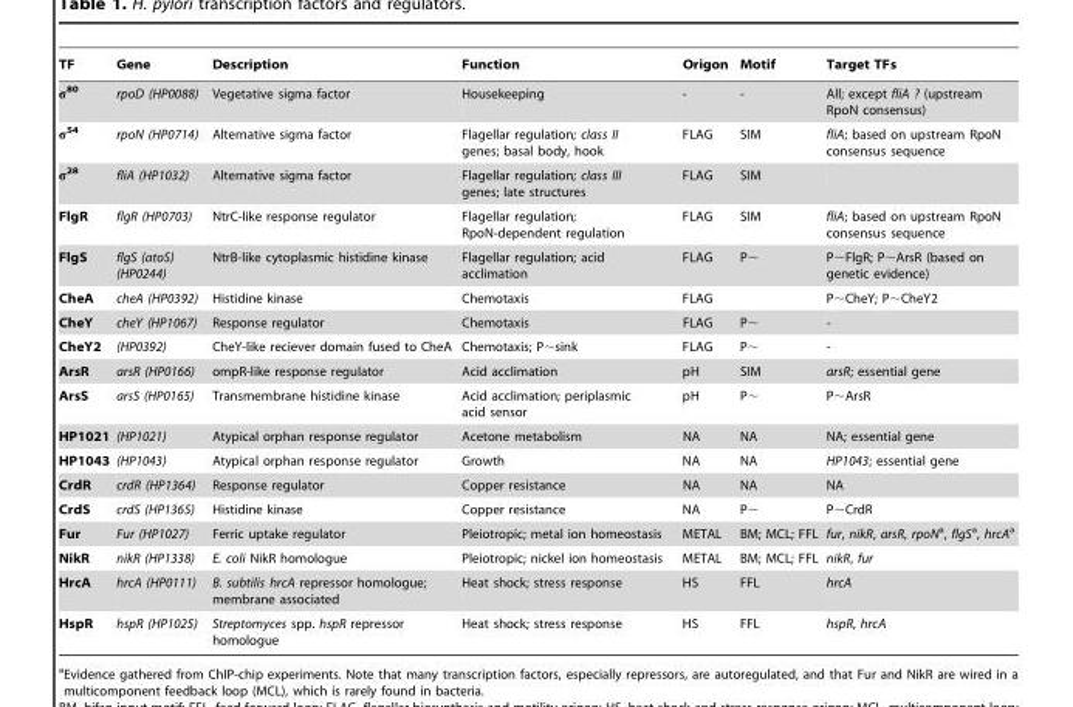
<table><thead><tr><td>TF</td><td>Gene</td><td>Description</td><td>Function</td><td>Origon</td><td>Motif</td><td>Target TFs</td></tr></thead><tbody><tr><td>σ<sup>80</sup></td><td>rpoD (HP0088)</td><td>Vegetative sigma factor</td><td>Housekeeping</td><td>-</td><td>-</td><td>All; except fliA ? (upstream RpoN consensus)</td></tr><tr><td>σ<sup>54</sup></td><td>rpoN (HP0714)</td><td>Alternative sigma factor</td><td>Flagellar regulation; class II genes; basal body, hook</td><td>FLAG</td><td>SIM</td><td>fliA; based on upstream RpoN consensus sequence</td></tr><tr><td>σ<sup>28</sup></td><td>fliA (HP1032)</td><td>Alternative sigma factor</td><td>Flagellar regulation; class III genes; late structures</td><td>FLAG</td><td>SIM</td><td></td></tr><tr><td>FlgR</td><td>flgR (HP0703)</td><td>NtrC-like response regulator</td><td>Flagellar regulation; RpoN-dependent regulation</td><td>FLAG</td><td>SIM</td><td>fliA; based on upstream RpoN consensus sequence</td></tr><tr><td>FlgS</td><td>flgS (atoS) (HP0244)</td><td>NtrB-like cytoplasmic histidine kinase</td><td>Flagellar regulation; acid acclimation</td><td>FLAG</td><td>P∼</td><td>P∼FlgR; P∼ArsR (based on genetic evidence)</td></tr><tr><td>CheA</td><td>cheA (HP0392)</td><td>Histidine kinase</td><td>Chemotaxis</td><td>FLAG</td><td></td><td>P∼CheY; P∼CheY2</td></tr><tr><td>CheY</td><td>cheY (HP1067)</td><td>Response regulator</td><td>Chemotaxis</td><td>FLAG</td><td>P∼</td><td>-</td></tr><tr><td>CheY2</td><td>(HP0392)</td><td>CheY-like reciever domain fused to CheA</td><td>Chemotaxis; P∼sink</td><td>FLAG</td><td>P∼</td><td>-</td></tr><tr><td>ArsR</td><td>arsR (HP0166)</td><td>ompR-like response regulator</td><td>Acid acclimation</td><td>pH</td><td>SIM</td><td>arsR; essential gene</td></tr><tr><td>ArsS</td><td>arsS (HP0165)</td><td>Transmembrane histidine kinase</td><td>Acid acclimation; periplasmic acid sensor</td><td>pH</td><td>P∼</td><td>P∼ArsR</td></tr><tr><td>HP1021</td><td>(HP1021)</td><td>Atypical orphan response regulator</td><td>Acetone metabolism</td><td>NA</td><td>NA</td><td>NA; essential gene</td></tr><tr><td>HP1043</td><td>(HP1043)</td><td>Atypical orphan response regulator</td><td>Growth</td><td>NA</td><td>NA</td><td>HP1043; essential gene</td></tr><tr><td>CrdR</td><td>crdR (HP1364)</td><td>Response regulator</td><td>Copper resistance</td><td>NA</td><td>NA</td><td>NA</td></tr><tr><td>CrdS</td><td>crdS (HP1365)</td><td>Histidine kinase</td><td>Copper resistance</td><td>NA</td><td>P∼</td><td>P∼CrdR</td></tr><tr><td>Fur</td><td>Fur (HP1027)</td><td>Ferric uptake regulator</td><td>Pleiotropic; metal ion homeostasis</td><td>METAL</td><td>BM; MCL; FFL</td><td>fur, nikR, arsR, rpoNa, flgSa, hrcAa</td></tr><tr><td>NikR</td><td>nikR (HP1338)</td><td>E. coli NikR homologue</td><td>Pleiotropic; nickel ion homeostasis</td><td>METAL</td><td>BM; MCL; FFL</td><td>nikR, fur</td></tr><tr><td>HrcA</td><td>hrcA (HP0111)</td><td>B. subtilis hrcA repressor homologue; membrane associated</td><td>Heat shock; stress response</td><td>HS</td><td>FFL</td><td>hrcA</td></tr><tr><td>HspR</td><td>hspR (HP1025)</td><td>Streptomyces spp. hspR repressor homologue</td><td>Heat shock; stress response</td><td>HS</td><td>FFL</td><td>hspR, hrcA</td></tr></tbody></table>